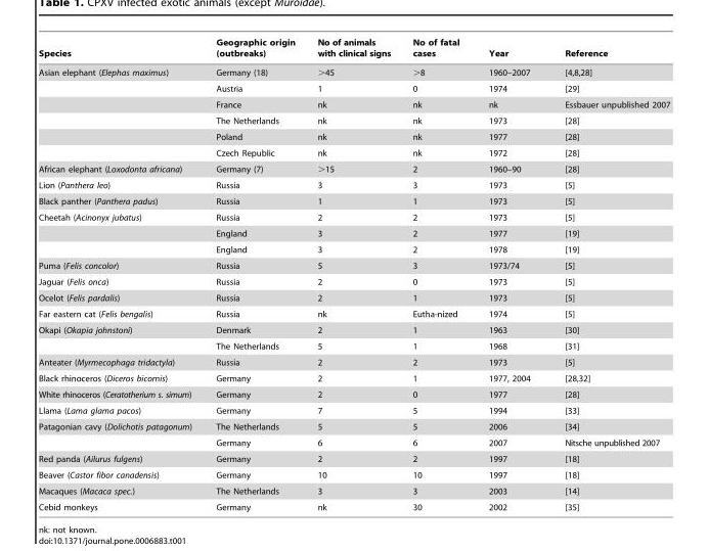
<table><thead><tr><td>Species</td><td>Geographic origin (outbreaks)</td><td>No of animals with clinical signs</td><td>No of fatal cases</td><td>Year</td><td>Reference</td></tr></thead><tbody><tr><td rowspan="6">Asian elephant (Elephas maximus)</td><td>Germany (18)</td><td>&gt;45</td><td>&gt;8</td><td>1960–2007</td><td>[4,8,28]</td></tr><tr><td>Austria</td><td>1</td><td>0</td><td>1974</td><td>[29]</td></tr><tr><td>France</td><td>nk</td><td>nk</td><td>nk</td><td>Essbauer unpublished 2007</td></tr><tr><td>The Netherlands</td><td>nk</td><td>nk</td><td>1973</td><td>[28]</td></tr><tr><td>Poland</td><td>nk</td><td>nk</td><td>1977</td><td>[28]</td></tr><tr><td>Czech Republic</td><td>nk</td><td>nk</td><td>1972</td><td>[28]</td></tr><tr><td>African elephant (Loxodonta africana)</td><td>Germany (7)</td><td>&gt;15</td><td>2</td><td>1960–90</td><td>[28]</td></tr><tr><td>Lion (Panthera leo)</td><td>Russia</td><td>3</td><td>3</td><td>1973</td><td>[5]</td></tr><tr><td>Black panther (Panthera padus)</td><td>Russia</td><td>1</td><td>1</td><td>1973</td><td>[5]</td></tr><tr><td rowspan="3">Cheetah (Acinonyx jubatus)</td><td>Russia</td><td>2</td><td>2</td><td>1973</td><td>[5]</td></tr><tr><td>England</td><td>3</td><td>2</td><td>1977</td><td>[19]</td></tr><tr><td>England</td><td>3</td><td>2</td><td>1978</td><td>[19]</td></tr><tr><td>Puma (Felis concolor)</td><td>Russia</td><td>5</td><td>3</td><td>1973/74</td><td>[5]</td></tr><tr><td>Jaguar (Felis onca)</td><td>Russia</td><td>2</td><td>0</td><td>1973</td><td>[5]</td></tr><tr><td>Ocelot (Felis pardalis)</td><td>Russia</td><td>2</td><td>1</td><td>1973</td><td>[5]</td></tr><tr><td>Far eastern cat (Felis bengalis)</td><td>Russia</td><td>nk</td><td>Eutha-nized</td><td>1974</td><td>[5]</td></tr><tr><td rowspan="2">Okapi (Okapia johnstoni)</td><td>Denmark</td><td>2</td><td>1</td><td>1963</td><td>[30]</td></tr><tr><td>The Netherlands</td><td>5</td><td>1</td><td>1968</td><td>[31]</td></tr><tr><td>Anteater (Myrmecophaga tridactyla)</td><td>Russia</td><td>2</td><td>2</td><td>1973</td><td>[5]</td></tr><tr><td>Black rhinoceros (Diceros bicornis)</td><td>Germany</td><td>2</td><td>1</td><td>1977, 2004</td><td>[28,32]</td></tr><tr><td>White rhinoceros (Ceratotherium s. simum)</td><td>Germany</td><td>2</td><td>0</td><td>1977</td><td>[28]</td></tr><tr><td>Llama (Lama glama pacos)</td><td>Germany</td><td>7</td><td>5</td><td>1994</td><td>[33]</td></tr><tr><td rowspan="2">Patagonian cavy (Dolichotis patagonum)</td><td>The Netherlands</td><td>5</td><td>5</td><td>2006</td><td>[34]</td></tr><tr><td>Germany</td><td>6</td><td>6</td><td>2007</td><td>Nitsche unpublished 2007</td></tr><tr><td>Red panda (Ailurus fulgens)</td><td>Germany</td><td>2</td><td>2</td><td>1997</td><td>[18]</td></tr><tr><td>Beaver (Castor fibor canadensis)</td><td>Germany</td><td>10</td><td>10</td><td>1997</td><td>[18]</td></tr><tr><td>Macaques (Macaca spec.)</td><td>The Netherlands</td><td>3</td><td>3</td><td>2003</td><td>[14]</td></tr><tr><td>Cebid monkeys</td><td>Germany</td><td>nk</td><td>30</td><td>2002</td><td>[35]</td></tr></tbody></table>